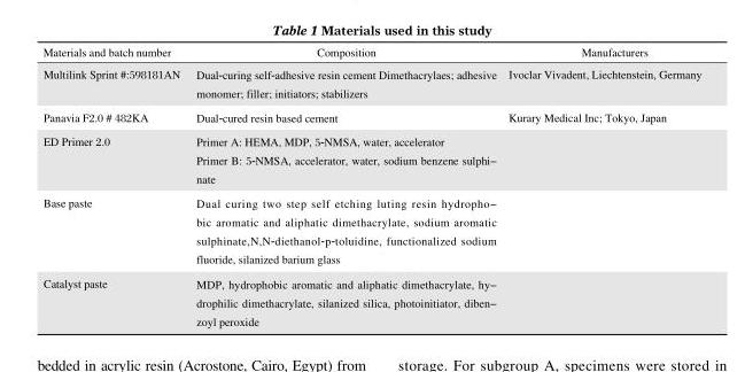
<table><thead><tr><td>Materials and batch number</td><td>Composition</td><td>Manufacturers</td></tr></thead><tbody><tr><td>Multilink Sprint #:598181AN</td><td>Dual-curing self-adhesive resin cement Dimethacrylaes; adhesive monomer; filler; initiators; stabilizers</td><td>Ivoclar Vivadent, Liechtenstein, Germany</td></tr><tr><td>Panavia F2.0 # 482KA</td><td>Dual-cured resin based cement</td><td>Kurary Medical Inc; Tokyo, Japan</td></tr><tr><td>ED Primer 2.0</td><td>Primer A: HEMA, MDP, 5-NMSA, water, accelerator Primer B: 5-NMSA, accelerator, water, sodium benzene sulphi- nate</td><td></td></tr><tr><td>Base paste</td><td>Dual curing two step self etching luting resin hydropho- bic aromatic and aliphatic dimethacrylate, sodium aromatic sulphinate,N,N-diethanol-p-toluidine, functionalized sodium fluoride, silanized barium glass</td><td></td></tr><tr><td>Catalyst paste</td><td>MDP, hydrophobic aromatic and aliphatic dimethacrylate, hy- drophilic dimethacrylate, silanized silica, photoinitiator, diben- zoyl peroxide</td><td></td></tr></tbody></table>